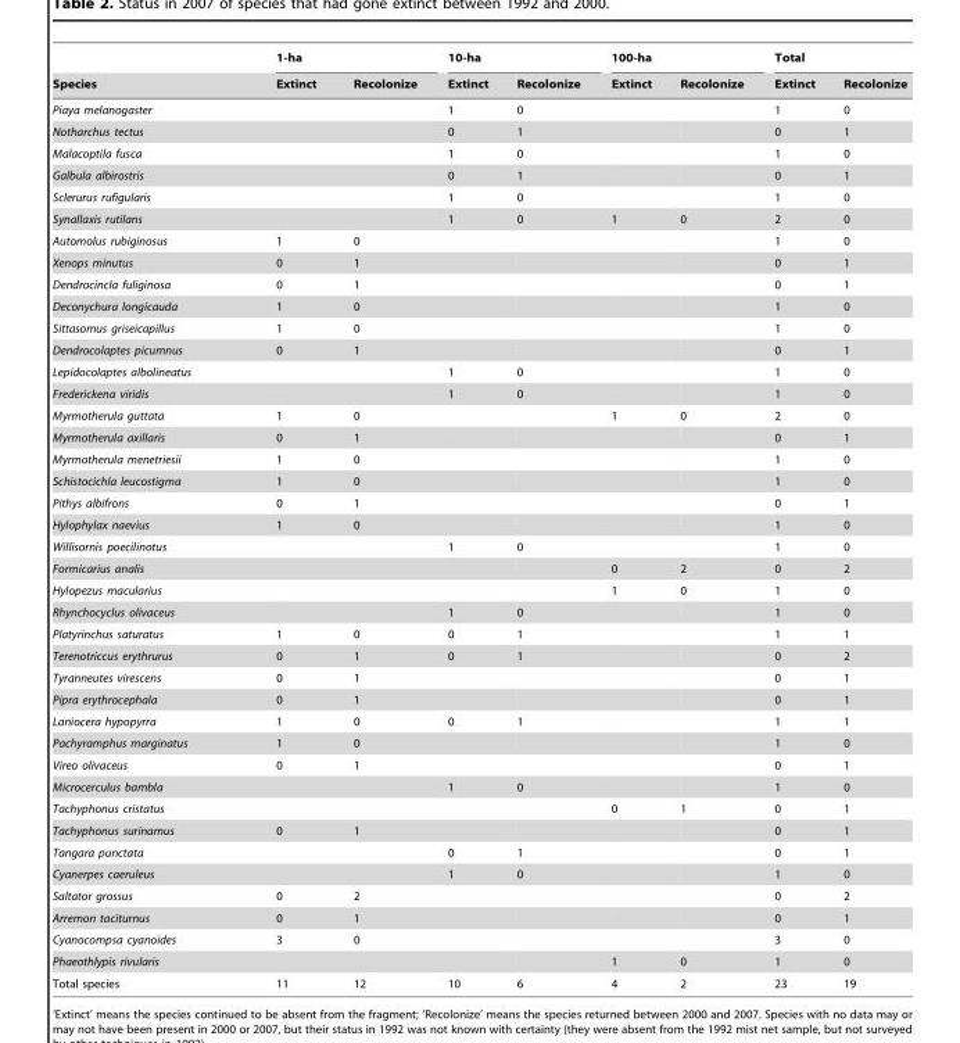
<table><thead><tr><td rowspan="2">Species</td><td colspan="2">1-ha</td><td colspan="2">10-ha</td><td colspan="2">100-ha</td><td colspan="2">Total</td></tr><tr><td>Extinct</td><td>Recolonize</td><td>Extinct</td><td>Recolonize</td><td>Extinct</td><td>Recolonize</td><td>Extinct</td><td>Recolonize</td></tr></thead><tbody><tr><td>Piaya melanogaster</td><td></td><td></td><td>1</td><td>0</td><td></td><td></td><td>1</td><td>0</td></tr><tr><td>Notharchus tectus</td><td></td><td></td><td>0</td><td>1</td><td></td><td></td><td>0</td><td>1</td></tr><tr><td>Malacoptila fusca</td><td></td><td></td><td>1</td><td>0</td><td></td><td></td><td>1</td><td>0</td></tr><tr><td>Galbula albirostris</td><td></td><td></td><td>0</td><td>1</td><td></td><td></td><td>0</td><td>1</td></tr><tr><td>Sclerurus rufigularis</td><td></td><td></td><td>1</td><td>0</td><td></td><td></td><td>1</td><td>0</td></tr><tr><td>Synallaxis rutilans</td><td></td><td></td><td>1</td><td>0</td><td>1</td><td>0</td><td>2</td><td>0</td></tr><tr><td>Automolus rubiginosus</td><td>1</td><td>0</td><td></td><td></td><td></td><td></td><td>1</td><td>0</td></tr><tr><td>Xenops minutus</td><td>0</td><td>1</td><td></td><td></td><td></td><td></td><td>0</td><td>1</td></tr><tr><td>Dendrocincla fuliginosa</td><td>0</td><td>1</td><td></td><td></td><td></td><td></td><td>0</td><td>1</td></tr><tr><td>Deconychura longicauda</td><td>1</td><td>0</td><td></td><td></td><td></td><td></td><td>1</td><td>0</td></tr><tr><td>Sittasomus griseicapillus</td><td>1</td><td>0</td><td></td><td></td><td></td><td></td><td>1</td><td>0</td></tr><tr><td>Dendrocolaptes picumnus</td><td>0</td><td>1</td><td></td><td></td><td></td><td></td><td>0</td><td>1</td></tr><tr><td>Lepidocolaptes albolineatus</td><td></td><td></td><td>1</td><td>0</td><td></td><td></td><td>1</td><td>0</td></tr><tr><td>Frederickena viridis</td><td></td><td></td><td>1</td><td>0</td><td></td><td></td><td>1</td><td>0</td></tr><tr><td>Myrmotherula guttata</td><td>1</td><td>0</td><td></td><td></td><td>1</td><td>0</td><td>2</td><td>0</td></tr><tr><td>Myrmotherula axillaris</td><td>0</td><td>1</td><td></td><td></td><td></td><td></td><td>0</td><td>1</td></tr><tr><td>Myrmotherula menetriesii</td><td>1</td><td>0</td><td></td><td></td><td></td><td></td><td>1</td><td>0</td></tr><tr><td>Schistocichla leucostigma</td><td>1</td><td>0</td><td></td><td></td><td></td><td></td><td>1</td><td>0</td></tr><tr><td>Pithys albifrons</td><td>0</td><td>1</td><td></td><td></td><td></td><td></td><td>0</td><td>1</td></tr><tr><td>Hylophylax naevius</td><td>1</td><td>0</td><td></td><td></td><td></td><td></td><td>1</td><td>0</td></tr><tr><td>Willisornis poecilinotus</td><td></td><td></td><td>1</td><td>0</td><td></td><td></td><td>1</td><td>0</td></tr><tr><td>Formicarius analis</td><td></td><td></td><td></td><td></td><td>0</td><td>2</td><td>0</td><td>2</td></tr><tr><td>Hylopezus macularius</td><td></td><td></td><td></td><td></td><td>1</td><td>0</td><td>1</td><td>0</td></tr><tr><td>Rhynchocyclus olivaceus</td><td></td><td></td><td>1</td><td>0</td><td></td><td></td><td>1</td><td>0</td></tr><tr><td>Platyrinchus saturatus</td><td>1</td><td>0</td><td>0</td><td>1</td><td></td><td></td><td>1</td><td>1</td></tr><tr><td>Terenotriccus erythrurus</td><td>0</td><td>1</td><td>0</td><td>1</td><td></td><td></td><td>0</td><td>2</td></tr><tr><td>Tyranneutes virescens</td><td>0</td><td>1</td><td></td><td></td><td></td><td></td><td>0</td><td>1</td></tr><tr><td>Pipra erythrocephala</td><td>0</td><td>1</td><td></td><td></td><td></td><td></td><td>0</td><td>1</td></tr><tr><td>Laniocera hypopyrra</td><td>1</td><td>0</td><td>0</td><td>1</td><td></td><td></td><td>1</td><td>1</td></tr><tr><td>Pachyramphus marginatus</td><td>1</td><td>0</td><td></td><td></td><td></td><td></td><td>1</td><td>0</td></tr><tr><td>Vireo olivaceus</td><td>0</td><td>1</td><td></td><td></td><td></td><td></td><td>0</td><td>1</td></tr><tr><td>Microcerculus bambla</td><td></td><td></td><td>1</td><td>0</td><td></td><td></td><td>1</td><td>0</td></tr><tr><td>Tachyphonus cristatus</td><td></td><td></td><td></td><td></td><td>0</td><td>1</td><td>0</td><td>1</td></tr><tr><td>Tachyphonus surinamus</td><td>0</td><td>1</td><td></td><td></td><td></td><td></td><td>0</td><td>1</td></tr><tr><td>Tangara punctata</td><td></td><td></td><td>0</td><td>1</td><td></td><td></td><td>0</td><td>1</td></tr><tr><td>Cyanerpes caeruleus</td><td></td><td></td><td>1</td><td>0</td><td></td><td></td><td>1</td><td>0</td></tr><tr><td>Saltator grossus</td><td>0</td><td>2</td><td></td><td></td><td></td><td></td><td>0</td><td>2</td></tr><tr><td>Arremon taciturnus</td><td>0</td><td>1</td><td></td><td></td><td></td><td></td><td>0</td><td>1</td></tr><tr><td>Cyanocompsa cyanoides</td><td>3</td><td>0</td><td></td><td></td><td></td><td></td><td>3</td><td>0</td></tr><tr><td>Phaeothlypis rivularis</td><td></td><td></td><td></td><td></td><td>1</td><td>0</td><td>1</td><td>0</td></tr><tr><td>Total species</td><td>11</td><td>12</td><td>10</td><td>6</td><td>4</td><td>2</td><td>23</td><td>19</td></tr></tbody></table>